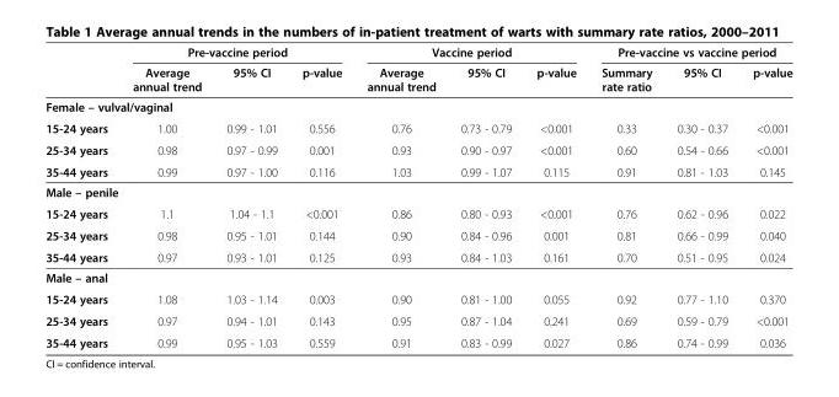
<table><thead><tr><td rowspan="2"></td><td colspan="3">Pre-vaccine period</td><td colspan="3">Vaccine period</td><td colspan="3">Pre-vaccine vs vaccine period</td></tr><tr><td>Average annual trend</td><td>95% CI</td><td>p-value</td><td>Average annual trend</td><td>95% CI</td><td>p-value</td><td>Summary rate ratio</td><td>95% CI</td><td>p-value</td></tr></thead><tbody><tr><td colspan="10">Female – vulval/vaginal</td></tr><tr><td>15-24 years</td><td>1.00</td><td>0.99 - 1.01</td><td>0.556</td><td>0.76</td><td>0.73 - 0.79</td><td>&lt;0.001</td><td>0.33</td><td>0.30 - 0.37</td><td>&lt;0.001</td></tr><tr><td>25-34 years</td><td>0.98</td><td>0.97 - 0.99</td><td>0.001</td><td>0.93</td><td>0.90 - 0.97</td><td>&lt;0.001</td><td>0.60</td><td>0.54 - 0.66</td><td>&lt;0.001</td></tr><tr><td>35-44 years</td><td>0.99</td><td>0.97 - 1.00</td><td>0.116</td><td>1.03</td><td>0.99 - 1.07</td><td>0.115</td><td>0.91</td><td>0.81 - 1.03</td><td>0.145</td></tr><tr><td colspan="10">Male – penile</td></tr><tr><td>15-24 years</td><td>1.1</td><td>1.04 - 1.1</td><td>&lt;0.001</td><td>0.86</td><td>0.80 - 0.93</td><td>&lt;0.001</td><td>0.76</td><td>0.62 - 0.96</td><td>0.022</td></tr><tr><td>25-34 years</td><td>0.98</td><td>0.95 - 1.01</td><td>0.144</td><td>0.90</td><td>0.84 - 0.96</td><td>0.001</td><td>0.81</td><td>0.66 - 0.99</td><td>0.040</td></tr><tr><td>35-44 years</td><td>0.97</td><td>0.93 - 1.01</td><td>0.125</td><td>0.93</td><td>0.84 - 1.03</td><td>0.161</td><td>0.70</td><td>0.51 - 0.95</td><td>0.024</td></tr><tr><td colspan="10">Male – anal</td></tr><tr><td>15-24 years</td><td>1.08</td><td>1.03 - 1.14</td><td>0.003</td><td>0.90</td><td>0.81 - 1.00</td><td>0.055</td><td>0.92</td><td>0.77 - 1.10</td><td>0.370</td></tr><tr><td>25-34 years</td><td>0.97</td><td>0.94 - 1.01</td><td>0.143</td><td>0.95</td><td>0.87 - 1.04</td><td>0.241</td><td>0.69</td><td>0.59 - 0.79</td><td>&lt;0.001</td></tr><tr><td>35-44 years</td><td>0.99</td><td>0.95 - 1.03</td><td>0.559</td><td>0.91</td><td>0.83 - 0.99</td><td>0.027</td><td>0.86</td><td>0.74 - 0.99</td><td>0.036</td></tr></tbody></table>